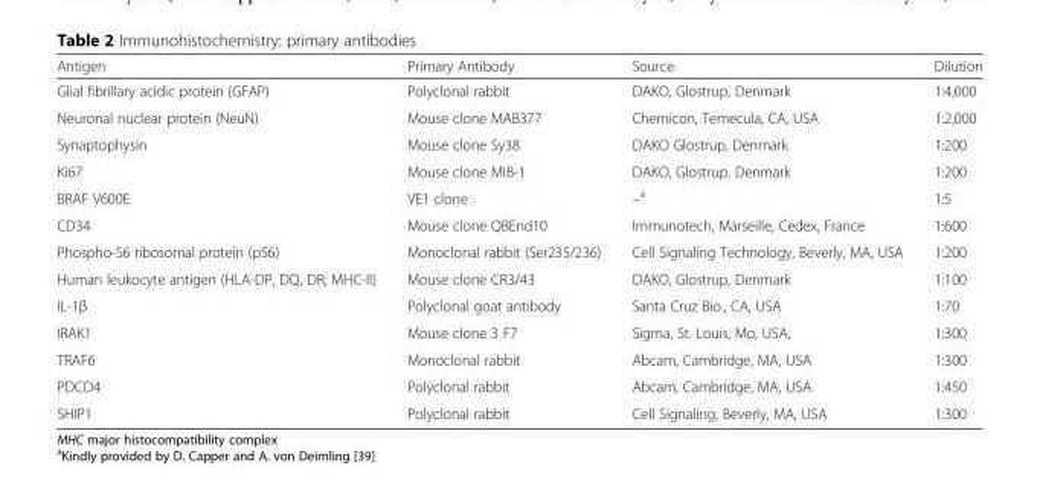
<table><thead><tr><td>Antigen</td><td>Primary Antibody</td><td>Source</td><td>Dilution</td></tr></thead><tbody><tr><td>Glial fibrillary acidic protein (GFAP)</td><td>Polyclonal rabbit</td><td>DAKO, Glostrup, Denmark</td><td>1:4,000</td></tr><tr><td>Neuronal nuclear protein (NeuN)</td><td>Mouse clone MAB377</td><td>Chemicon, Temecula, CA, USA</td><td>1:2,000</td></tr><tr><td>Synaptophysin</td><td>Mouse clone Sy38</td><td>DAKO Glostrup, Denmark</td><td>1:200</td></tr><tr><td>Ki67</td><td>Mouse clone MIB-1</td><td>DAKO, Glostrup, Denmark</td><td>1:200</td></tr><tr><td>BRAF V600E</td><td>VE1 clone</td><td>–<sup>a</sup></td><td>1:5</td></tr><tr><td>CD34</td><td>Mouse clone QBEnd10</td><td>Immunotech, Marseille, Cedex, France</td><td>1:600</td></tr><tr><td>Phospho-S6 ribosomal protein (pS6)</td><td>Monoclonal rabbit (Ser235/236)</td><td>Cell Signaling Technology, Beverly, MA, USA</td><td>1:200</td></tr><tr><td>Human leukocyte antigen (HLA-DP, DQ, DR; MHC-II)</td><td>Mouse clone CR3/43</td><td>DAKO, Glostrup, Denmark</td><td>1:100</td></tr><tr><td>IL-1β</td><td>Polyclonal goat antibody</td><td>Santa Cruz Bio., CA, USA</td><td>1:70</td></tr><tr><td>IRAK1</td><td>Mouse clone 3 F7</td><td>Sigma, St. Louis, Mo, USA,</td><td>1:300</td></tr><tr><td>TRAF6</td><td>Monoclonal rabbit</td><td>Abcam, Cambridge, MA, USA</td><td>1:300</td></tr><tr><td>PDCD4</td><td>Polyclonal rabbit</td><td>Abcam, Cambridge, MA, USA</td><td>1:450</td></tr><tr><td>SHIP1</td><td>Polyclonal rabbit</td><td>Cell Signaling, Beverly, MA, USA</td><td>1:300</td></tr></tbody></table>